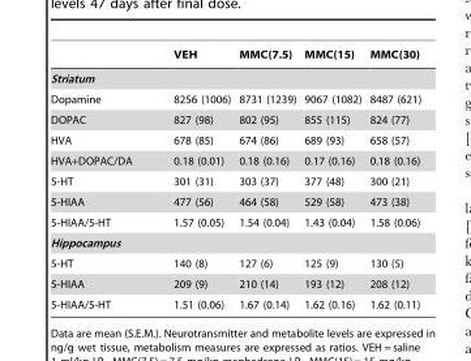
<table><thead><tr><td></td><td>VEH</td><td>MMC(7.5)</td><td>MMC(15)</td><td>MMC(30)</td></tr></thead><tbody><tr><td colspan="5">Striatum</td></tr><tr><td>Dopamine</td><td>8256 (1006)</td><td>8731 (1239)</td><td>9067 (1082)</td><td>8487 (621)</td></tr><tr><td>DOPAC</td><td>827 (98)</td><td>802 (95)</td><td>855 (115)</td><td>824 (77)</td></tr><tr><td>HVA</td><td>678 (85)</td><td>674 (86)</td><td>689 (93)</td><td>658 (57)</td></tr><tr><td>HVA+DOPAC/DA</td><td>0.18 (0.01)</td><td>0.18 (0.16)</td><td>0.17 (0.16)</td><td>0.18 (0.16)</td></tr><tr><td>5-HT</td><td>301 (31)</td><td>303 (37)</td><td>377 (48)</td><td>300 (21)</td></tr><tr><td>5-HIAA</td><td>477 (56)</td><td>464 (58)</td><td>529 (58)</td><td>473 (38)</td></tr><tr><td>5-HIAA/5-HT</td><td>1.57 (0.05)</td><td>1.54 (0.04)</td><td>1.43 (0.04)</td><td>1.58 (0.06)</td></tr><tr><td colspan="5">Hippocampus</td></tr><tr><td>5-HT</td><td>140 (8)</td><td>127 (6)</td><td>125 (9)</td><td>130 (5)</td></tr><tr><td>5-HIAA</td><td>209 (9)</td><td>210 (14)</td><td>193 (12)</td><td>208 (12)</td></tr><tr><td>5-HIAA/5-HT</td><td>1.51 (0.06)</td><td>1.67 (0.14)</td><td>1.62 (0.16)</td><td>1.62 (0.11)</td></tr></tbody></table>